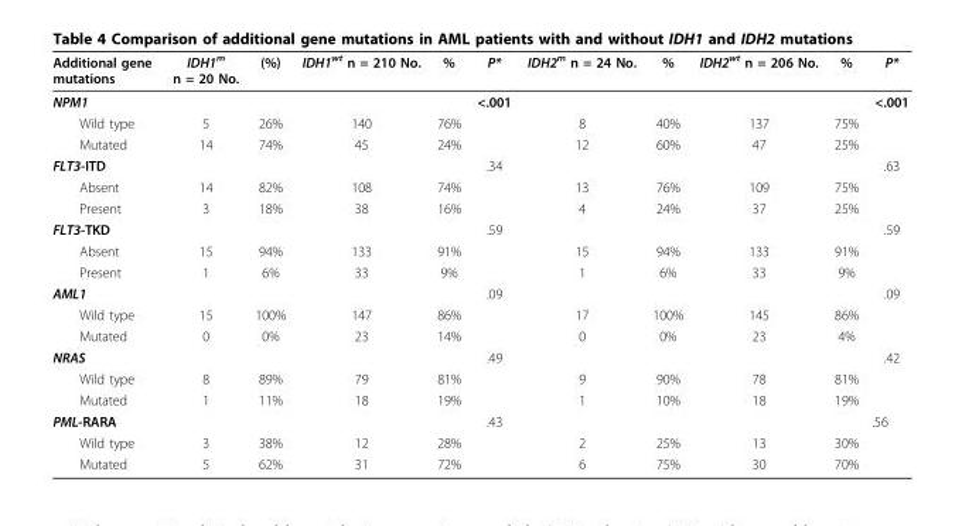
<table><thead><tr><td>Additional gene mutations</td><td>IDH1<sup>m</sup> n = 20 No.</td><td>(%)</td><td>IDH1<sup>wt</sup> n = 210 No.</td><td>%</td><td>P*</td><td>IDH2<sup>m</sup> n = 24 No.</td><td>%</td><td>IDH2<sup>wt</sup> n = 206 No.</td><td>%</td><td>P*</td></tr></thead><tbody><tr><td>NPM1</td><td></td><td></td><td></td><td></td><td>&lt;.001</td><td></td><td></td><td></td><td></td><td>&lt;.001</td></tr><tr><td>Wild type</td><td>5</td><td>26%</td><td>140</td><td>76%</td><td></td><td>8</td><td>40%</td><td>137</td><td>75%</td><td></td></tr><tr><td>Mutated</td><td>14</td><td>74%</td><td>45</td><td>24%</td><td></td><td>12</td><td>60%</td><td>47</td><td>25%</td><td></td></tr><tr><td>FLT3-ITD</td><td></td><td></td><td></td><td></td><td>.34</td><td></td><td></td><td></td><td></td><td>.63</td></tr><tr><td>Absent</td><td>14</td><td>82%</td><td>108</td><td>74%</td><td></td><td>13</td><td>76%</td><td>109</td><td>75%</td><td></td></tr><tr><td>Present</td><td>3</td><td>18%</td><td>38</td><td>16%</td><td></td><td>4</td><td>24%</td><td>37</td><td>25%</td><td></td></tr><tr><td>FLT3-TKD</td><td></td><td></td><td></td><td></td><td>.59</td><td></td><td></td><td></td><td></td><td>.59</td></tr><tr><td>Absent</td><td>15</td><td>94%</td><td>133</td><td>91%</td><td></td><td>15</td><td>94%</td><td>133</td><td>91%</td><td></td></tr><tr><td>Present</td><td>1</td><td>6%</td><td>33</td><td>9%</td><td></td><td>1</td><td>6%</td><td>33</td><td>9%</td><td></td></tr><tr><td>AML1</td><td></td><td></td><td></td><td></td><td>.09</td><td></td><td></td><td></td><td></td><td>.09</td></tr><tr><td>Wild type</td><td>15</td><td>100%</td><td>147</td><td>86%</td><td></td><td>17</td><td>100%</td><td>145</td><td>86%</td><td></td></tr><tr><td>Mutated</td><td>0</td><td>0%</td><td>23</td><td>14%</td><td></td><td>0</td><td>0%</td><td>23</td><td>4%</td><td></td></tr><tr><td>NRAS</td><td></td><td></td><td></td><td></td><td>.49</td><td></td><td></td><td></td><td></td><td>.42</td></tr><tr><td>Wild type</td><td>8</td><td>89%</td><td>79</td><td>81%</td><td></td><td>9</td><td>90%</td><td>78</td><td>81%</td><td></td></tr><tr><td>Mutated</td><td>1</td><td>11%</td><td>18</td><td>19%</td><td></td><td>1</td><td>10%</td><td>18</td><td>19%</td><td></td></tr><tr><td>PML-RARA</td><td></td><td></td><td></td><td></td><td>.43</td><td></td><td></td><td></td><td></td><td>.56</td></tr><tr><td>Wild type</td><td>3</td><td>38%</td><td>12</td><td>28%</td><td></td><td>2</td><td>25%</td><td>13</td><td>30%</td><td></td></tr><tr><td>Mutated</td><td>5</td><td>62%</td><td>31</td><td>72%</td><td></td><td>6</td><td>75%</td><td>30</td><td>70%</td><td></td></tr></tbody></table>